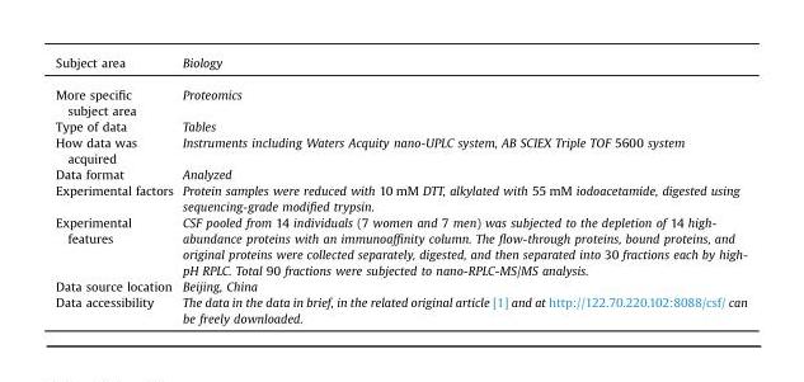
<table><tbody><tr><td>Subject area</td><td>Biology</td></tr><tr><td>More specific subject area</td><td>Proteomics</td></tr><tr><td>Type of data</td><td>Tables</td></tr><tr><td>How data was acquired</td><td>Instruments including Waters Acquity nano-UPLC system, AB SCIEX Triple TOF 5600 system</td></tr><tr><td>Data format</td><td>Analyzed</td></tr><tr><td>Experimental factors</td><td>Protein samples were reduced with 10 mM DTT, alkylated with 55 mM iodoacetamide, digested using sequencing-grade modified trypsin.</td></tr><tr><td>Experimental features</td><td>CSF pooled from 14 individuals (7 women and 7 men) was subjected to the depletion of 14 high- abundance proteins with an immunoaffinity column. The flow-through proteins, bound proteins, and original proteins were collected separately, digested, and then separated into 30 fractions each by high- pH RPLC. Total 90 fractions were subjected to nano-RPLC-MS/MS analysis.</td></tr><tr><td>Data source location</td><td>Beijing, China</td></tr><tr><td>Data accessibility</td><td>The data in the data in brief, in the related original article [1] and at http://122.70.220.102:8088/csf/ can be freely downloaded.</td></tr></tbody></table>